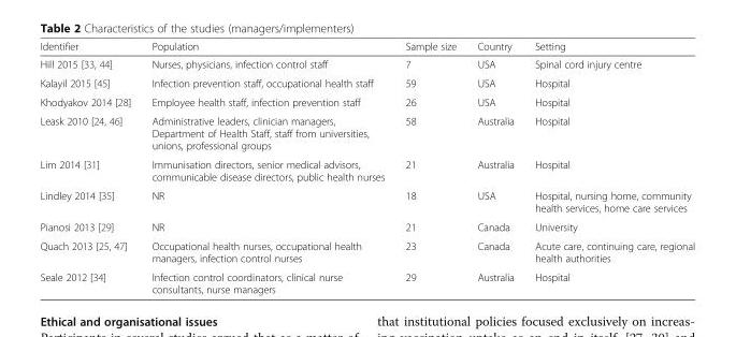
<table><thead><tr><td>Identifier</td><td>Population</td><td>Sample size</td><td>Country</td><td>Setting</td></tr></thead><tbody><tr><td>Hill 2015 [33, 44]</td><td>Nurses, physicians, infection control staff</td><td>7</td><td>USA</td><td>Spinal cord injury centre</td></tr><tr><td>Kalayil 2015 [45]</td><td>Infection prevention staff, occupational health staff</td><td>59</td><td>USA</td><td>Hospital</td></tr><tr><td>Khodyakov 2014 [28]</td><td>Employee health staff, infection prevention staff</td><td>26</td><td>USA</td><td>Hospital</td></tr><tr><td>Leask 2010 [24, 46]</td><td>Administrative leaders, clinician managers, Department of Health Staff, staff from universities, unions, professional groups</td><td>58</td><td>Australia</td><td>Hospital</td></tr><tr><td>Lim 2014 [31]</td><td>Immunisation directors, senior medical advisors, communicable disease directors, public health nurses</td><td>21</td><td>Australia</td><td>Hospital</td></tr><tr><td>Lindley 2014 [35]</td><td>NR</td><td>18</td><td>USA</td><td>Hospital, nursing home, community health services, home care services</td></tr><tr><td>Pianosi 2013 [29]</td><td>NR</td><td>21</td><td>Canada</td><td>University</td></tr><tr><td>Quach 2013 [25, 47]</td><td>Occupational health nurses, occupational health managers, infection control nurses</td><td>23</td><td>Canada</td><td>Acute care, continuing care, regional health authorities</td></tr><tr><td>Seale 2012 [34]</td><td>Infection control coordinators, clinical nurse consultants, nurse managers</td><td>29</td><td>Australia</td><td>Hospital</td></tr></tbody></table>